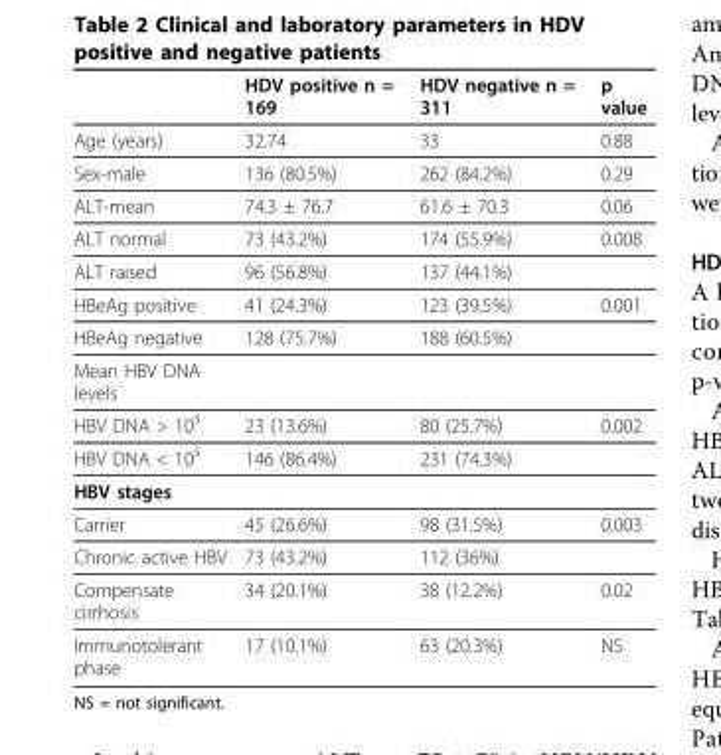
<table><thead><tr><td></td><td>HDV positive n = 169</td><td>HDV negative n = 311</td><td>p value</td></tr></thead><tbody><tr><td>Age (years)</td><td>32.74</td><td>33</td><td>0.88</td></tr><tr><td>Sex-male</td><td>136 (80.5%)</td><td>262 (84.2%)</td><td>0.29</td></tr><tr><td>ALT-mean</td><td>74.3 ± 76.7</td><td>61.6 ± 70.3</td><td>0.06</td></tr><tr><td>ALT normal</td><td>73 (43.2%)</td><td>174 (55.9%)</td><td>0.008</td></tr><tr><td>ALT raised</td><td>96 (56.8%)</td><td>137 (44.1%)</td><td></td></tr><tr><td>HBeAg positive</td><td>41 (24.3%)</td><td>123 (39.5%)</td><td>0.001</td></tr><tr><td>HBeAg negative</td><td>128 (75.7%)</td><td>188 (60.5%)</td><td></td></tr><tr><td colspan="4">Mean HBV DNA levels</td></tr><tr><td>HBV DNA &gt; 10<sup>5</sup></td><td>23 (13.6%)</td><td>80 (25.7%)</td><td>0.002</td></tr><tr><td>HBV DNA &lt; 10<sup>5</sup></td><td>146 (86.4%)</td><td>231 (74.3%)</td><td></td></tr><tr><td colspan="4">HBV stages</td></tr><tr><td>Carrier</td><td>45 (26.6%)</td><td>98 (31.5%)</td><td>0.003</td></tr><tr><td>Chronic active HBV</td><td>73 (43.2%)</td><td>112 (36%)</td><td></td></tr><tr><td>Compensate cirrhosis</td><td>34 (20.1%)</td><td>38 (12.2%)</td><td>0.02</td></tr><tr><td>Immunotolerant phase</td><td>17 (10.1%)</td><td>63 (20.3%)</td><td>NS</td></tr></tbody></table>